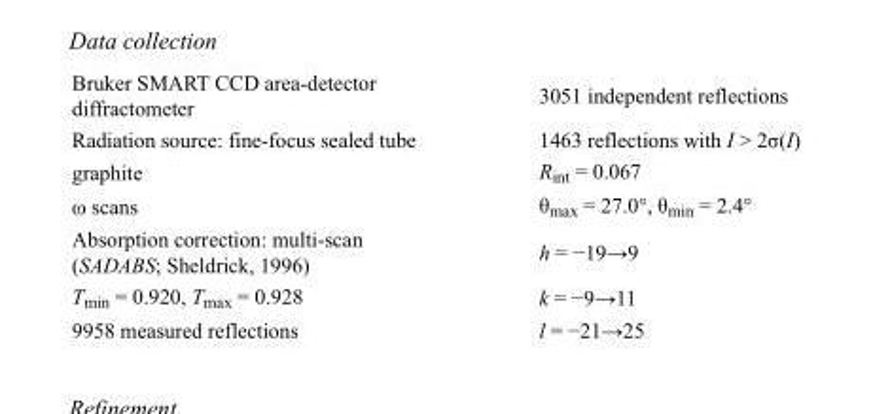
<table><tbody><tr><td>Bruker SMART CCD area-detector diffractometer</td><td>3051 independent reflections</td></tr><tr><td>Radiation source: fine-focus sealed tube</td><td>1463 reflections with I &gt; 2σ(I)</td></tr><tr><td>graphite</td><td>R<sub>int</sub> = 0.067</td></tr><tr><td>ω scans</td><td>θ<sub>max</sub> = 27.0°, θ<sub>min</sub> = 2.4°</td></tr><tr><td>Absorption correction: multi-scan (SADABS; Sheldrick, 1996)</td><td>h = −19→9</td></tr><tr><td>T<sub>min</sub> = 0.920, T<sub>max</sub> = 0.928</td><td>k = −9→11</td></tr><tr><td>9958 measured reflections</td><td>l = −21→25</td></tr></tbody></table>